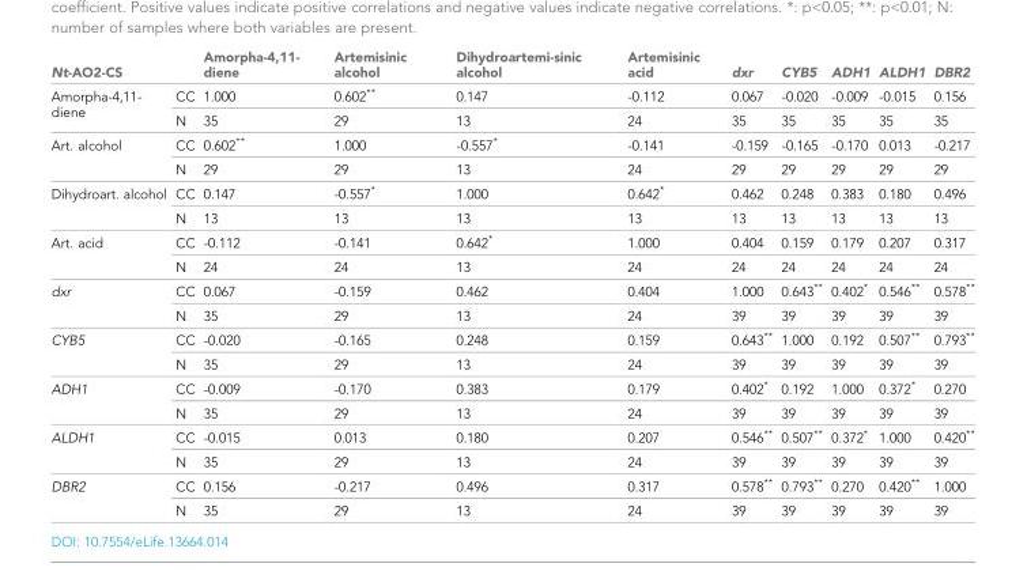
<table><thead><tr><td>Nt-AO2-CS</td><td></td><td>Amorpha-4,11- diene</td><td>Artemisinic alcohol</td><td>Dihydroartemi-sinic alcohol</td><td>Artemisinic acid</td><td>dxr</td><td>CYB5</td><td>ADH1</td><td>ALDH1</td><td>DBR2</td></tr></thead><tbody><tr><td rowspan="2">Amorpha-4,11- diene</td><td>CC</td><td>1.000</td><td>0.602**</td><td>0.147</td><td>-0.112</td><td>0.067</td><td>-0.020</td><td>-0.009</td><td>-0.015</td><td>0.156</td></tr><tr><td>N</td><td>35</td><td>29</td><td>13</td><td>24</td><td>35</td><td>35</td><td>35</td><td>35</td><td>35</td></tr><tr><td rowspan="2">Art. alcohol</td><td>CC</td><td>0.602**</td><td>1.000</td><td>-0.557*</td><td>-0.141</td><td>-0.159</td><td>-0.165</td><td>-0.170</td><td>0.013</td><td>-0.217</td></tr><tr><td>N</td><td>29</td><td>29</td><td>13</td><td>24</td><td>29</td><td>29</td><td>29</td><td>29</td><td>29</td></tr><tr><td rowspan="2">Dihydroart. alcohol</td><td>CC</td><td>0.147</td><td>-0.557*</td><td>1.000</td><td>0.642*</td><td>0.462</td><td>0.248</td><td>0.383</td><td>0.180</td><td>0.496</td></tr><tr><td>N</td><td>13</td><td>13</td><td>13</td><td>13</td><td>13</td><td>13</td><td>13</td><td>13</td><td>13</td></tr><tr><td rowspan="2">Art. acid</td><td>CC</td><td>-0.112</td><td>-0.141</td><td>0.642*</td><td>1.000</td><td>0.404</td><td>0.159</td><td>0.179</td><td>0.207</td><td>0.317</td></tr><tr><td>N</td><td>24</td><td>24</td><td>13</td><td>24</td><td>24</td><td>24</td><td>24</td><td>24</td><td>24</td></tr><tr><td rowspan="2">dxr</td><td>CC</td><td>0.067</td><td>-0.159</td><td>0.462</td><td>0.404</td><td>1.000</td><td>0.643**</td><td>0.402*</td><td>0.546**</td><td>0.578**</td></tr><tr><td>N</td><td>35</td><td>29</td><td>13</td><td>24</td><td>39</td><td>39</td><td>39</td><td>39</td><td>39</td></tr><tr><td rowspan="2">CYB5</td><td>CC</td><td>-0.020</td><td>-0.165</td><td>0.248</td><td>0.159</td><td>0.643**</td><td>1.000</td><td>0.192</td><td>0.507**</td><td>0.793**</td></tr><tr><td>N</td><td>35</td><td>29</td><td>13</td><td>24</td><td>39</td><td>39</td><td>39</td><td>39</td><td>39</td></tr><tr><td rowspan="2">ADH1</td><td>CC</td><td>-0.009</td><td>-0.170</td><td>0.383</td><td>0.179</td><td>0.402*</td><td>0.192</td><td>1.000</td><td>0.372*</td><td>0.270</td></tr><tr><td>N</td><td>35</td><td>29</td><td>13</td><td>24</td><td>39</td><td>39</td><td>39</td><td>39</td><td>39</td></tr><tr><td rowspan="2">ALDH1</td><td>CC</td><td>-0.015</td><td>0.013</td><td>0.180</td><td>0.207</td><td>0.546**</td><td>0.507**</td><td>0.372*</td><td>1.000</td><td>0.420**</td></tr><tr><td>N</td><td>35</td><td>29</td><td>13</td><td>24</td><td>39</td><td>39</td><td>39</td><td>39</td><td>39</td></tr><tr><td rowspan="2">DBR2</td><td>CC</td><td>0.156</td><td>-0.217</td><td>0.496</td><td>0.317</td><td>0.578**</td><td>0.793**</td><td>0.270</td><td>0.420**</td><td>1.000</td></tr><tr><td>N</td><td>35</td><td>29</td><td>13</td><td>24</td><td>39</td><td>39</td><td>39</td><td>39</td><td>39</td></tr></tbody></table>